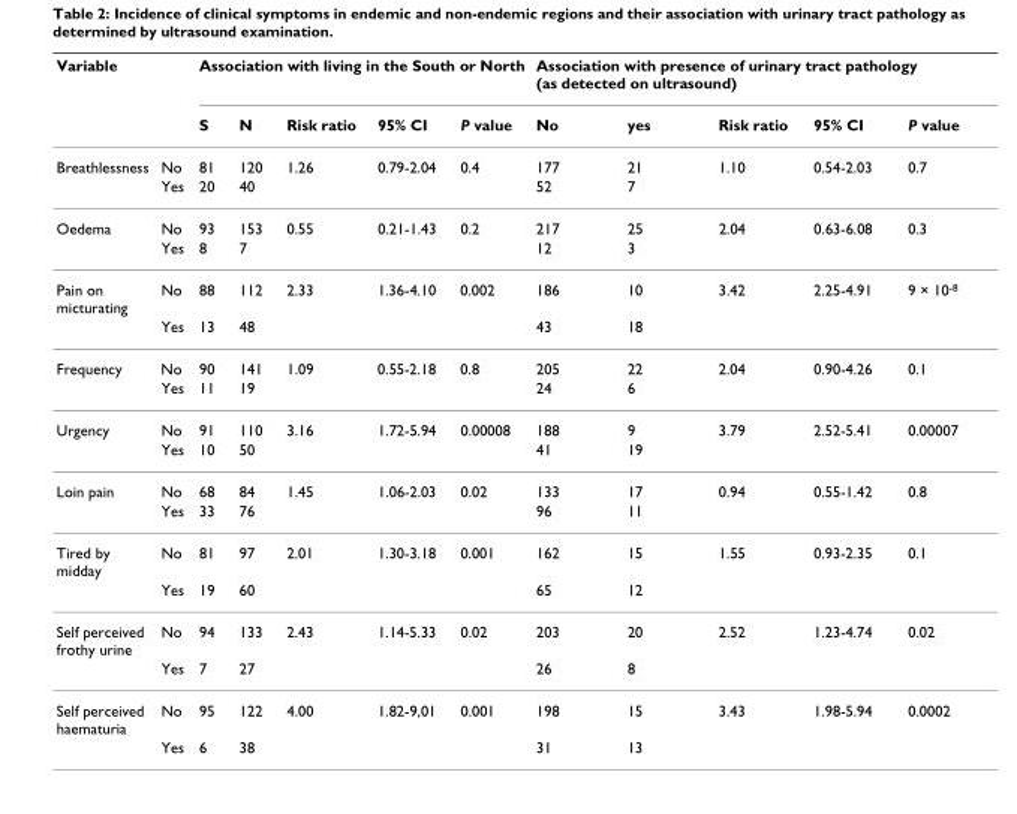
<table><thead><tr><td rowspan="2">Variable</td><td rowspan="2"></td><td colspan="5">Association with living in the South or North</td><td colspan="5">Association with presence of urinary tract pathology (as detected on ultrasound)</td></tr><tr><td>S</td><td>N</td><td>Risk ratio</td><td>95% CI</td><td>P value</td><td>No</td><td>yes</td><td>Risk ratio</td><td>95% CI</td><td>P value</td></tr></thead><tbody><tr><td rowspan="2">Breathlessness</td><td>No</td><td>81</td><td>120</td><td>1.26</td><td>0.79-2.04</td><td>0.4</td><td>177</td><td>21</td><td>1.10</td><td>0.54-2.03</td><td>0.7</td></tr><tr><td>Yes</td><td>20</td><td>40</td><td></td><td></td><td></td><td>52</td><td>7</td><td></td><td></td><td></td></tr><tr><td rowspan="2">Oedema</td><td>No</td><td>93</td><td>153</td><td>0.55</td><td>0.21-1.43</td><td>0.2</td><td>217</td><td>25</td><td>2.04</td><td>0.63-6.08</td><td>0.3</td></tr><tr><td>Yes</td><td>8</td><td>7</td><td></td><td></td><td></td><td>12</td><td>3</td><td></td><td></td><td></td></tr><tr><td rowspan="2">Pain on micturating</td><td>No</td><td>88</td><td>112</td><td>2.33</td><td>1.36-4.10</td><td>0.002</td><td>186</td><td>10</td><td>3.42</td><td>2.25-4.91</td><td>9 × 10<sup>-8</sup></td></tr><tr><td>Yes</td><td>13</td><td>48</td><td></td><td></td><td></td><td>43</td><td>18</td><td></td><td></td><td></td></tr><tr><td rowspan="2">Frequency</td><td>No</td><td>90</td><td>141</td><td>1.09</td><td>0.55-2.18</td><td>0.8</td><td>205</td><td>22</td><td>2.04</td><td>0.90-4.26</td><td>0.1</td></tr><tr><td>Yes</td><td>11</td><td>19</td><td></td><td></td><td></td><td>24</td><td>6</td><td></td><td></td><td></td></tr><tr><td rowspan="2">Urgency</td><td>No</td><td>91</td><td>110</td><td>3.16</td><td>1.72-5.94</td><td>0.00008</td><td>188</td><td>9</td><td>3.79</td><td>2.52-5.41</td><td>0.00007</td></tr><tr><td>Yes</td><td>10</td><td>50</td><td></td><td></td><td></td><td>41</td><td>19</td><td></td><td></td><td></td></tr><tr><td rowspan="2">Loin pain</td><td>No</td><td>68</td><td>84</td><td>1.45</td><td>1.06-2.03</td><td>0.02</td><td>133</td><td>17</td><td>0.94</td><td>0.55-1.42</td><td>0.8</td></tr><tr><td>Yes</td><td>33</td><td>76</td><td></td><td></td><td></td><td>96</td><td>11</td><td></td><td></td><td></td></tr><tr><td rowspan="2">Tired by midday</td><td>No</td><td>81</td><td>97</td><td>2.01</td><td>1.30-3.18</td><td>0.001</td><td>162</td><td>15</td><td>1.55</td><td>0.93-2.35</td><td>0.1</td></tr><tr><td>Yes</td><td>19</td><td>60</td><td></td><td></td><td></td><td>65</td><td>12</td><td></td><td></td><td></td></tr><tr><td rowspan="2">Self perceived frothy urine</td><td>No</td><td>94</td><td>133</td><td>2.43</td><td>1.14-5.33</td><td>0.02</td><td>203</td><td>20</td><td>2.52</td><td>1.23-4.74</td><td>0.02</td></tr><tr><td>Yes</td><td>7</td><td>27</td><td></td><td></td><td></td><td>26</td><td>8</td><td></td><td></td><td></td></tr><tr><td rowspan="2">Self perceived haematuria</td><td>No</td><td>95</td><td>122</td><td>4.00</td><td>1.82-9,01</td><td>0.001</td><td>198</td><td>15</td><td>3.43</td><td>1.98-5.94</td><td>0.0002</td></tr><tr><td>Yes</td><td>6</td><td>38</td><td></td><td></td><td></td><td>31</td><td>13</td><td></td><td></td><td></td></tr></tbody></table>